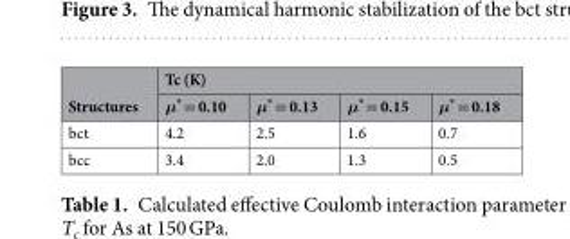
<table><thead><tr><td rowspan="2">Structures</td><td colspan="4">Tc (K)</td></tr><tr><td>μ* = 0.10</td><td>μ* = 0.13</td><td>μ* = 0.15</td><td>μ* = 0.18</td></tr></thead><tbody><tr><td>bct</td><td>4.2</td><td>2.5</td><td>1.6</td><td>0.7</td></tr><tr><td>bcc</td><td>3.4</td><td>2.0</td><td>1.3</td><td>0.5</td></tr></tbody></table>